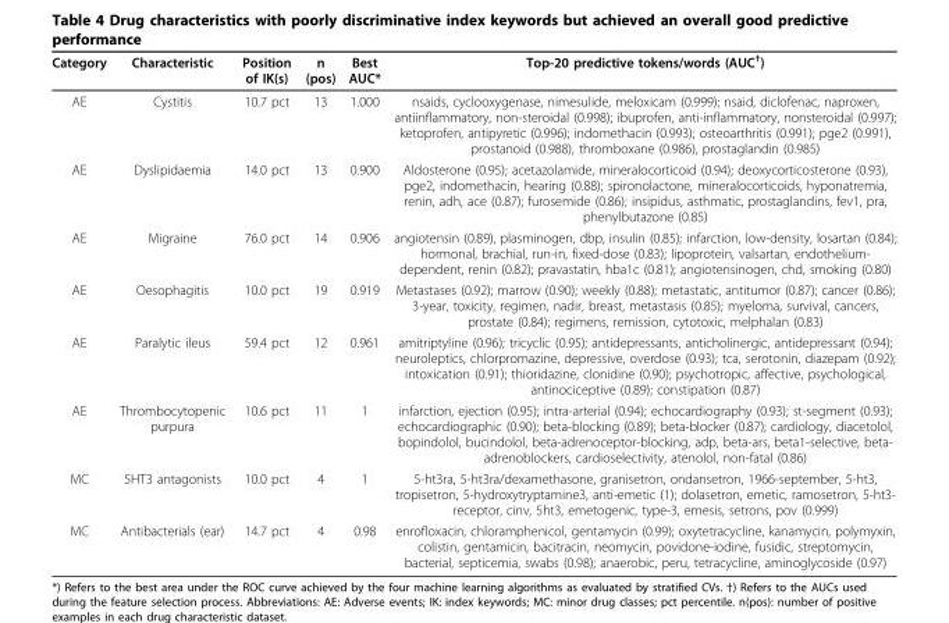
<table><thead><tr><td>Category</td><td>Characteristic</td><td>Position of IK(s)</td><td>n (pos)</td><td>Best AUC*</td><td>Top-20 predictive tokens/words (AUC<sup>†</sup>)</td></tr></thead><tbody><tr><td>AE</td><td>Cystitis</td><td>10.7 pct</td><td>13</td><td>1.000</td><td>nsaids, cyclooxygenase, nimesulide, meloxicam (0.999); nsaid, diclofenac, naproxen, antiinflammatory, non-steroidal (0.998); ibuprofen, anti-inflammatory, nonsteroidal (0.997); ketoprofen, antipyretic (0.996); indomethacin (0.993); osteoarthritis (0.991); pge2 (0.991), prostanoid (0.988), thromboxane (0.986), prostaglandin (0.985)</td></tr><tr><td>AE</td><td>Dyslipidaemia</td><td>14.0 pct</td><td>13</td><td>0.900</td><td>Aldosterone (0.95); acetazolamide, mineralocorticoid (0.94); deoxycorticosterone (0.93), pge2, indomethacin, hearing (0.88); spironolactone, mineralocorticoids, hyponatremia, renin, adh, ace (0.87); furosemide (0.86); insipidus, asthmatic, prostaglandins, fev1, pra, phenylbutazone (0.85)</td></tr><tr><td>AE</td><td>Migraine</td><td>76.0 pct</td><td>14</td><td>0.906</td><td>angiotensin (0.89), plasminogen, dbp, insulin (0.85); infarction, low-density, losartan (0.84); hormonal, brachial, run-in, fixed-dose (0.83); lipoprotein, valsartan, endothelium- dependent, renin (0.82); pravastatin, hba1c (0.81); angiotensinogen, chd, smoking (0.80)</td></tr><tr><td>AE</td><td>Oesophagitis</td><td>10.0 pct</td><td>19</td><td>0.919</td><td>Metastases (0.92); marrow (0.90); weekly (0.88); metastatic, antitumor (0.87); cancer (0.86); 3-year, toxicity, regimen, nadir, breast, metastasis (0.85); myeloma, survival, cancers, prostate (0.84); regimens, remission, cytotoxic, melphalan (0.83)</td></tr><tr><td>AE</td><td>Paralytic ileus</td><td>59.4 pct</td><td>12</td><td>0.961</td><td>amitriptyline (0.96); tricyclic (0.95); antidepressants, anticholinergic, antidepressant (0.94); neuroleptics, chlorpromazine, depressive, overdose (0.93); tca, serotonin, diazepam (0.92); intoxication (0.91); thioridazine, clonidine (0.90); psychotropic, affective, psychological, antinociceptive (0.89); constipation (0.87)</td></tr><tr><td>AE</td><td>Thrombocytopenic purpura</td><td>10.6 pct</td><td>11</td><td>1</td><td>infarction, ejection (0.95); intra-arterial (0.94); echocardiography (0.93); st-segment (0.93); echocardiographic (0.90); beta-blocking (0.89); beta-blocker (0.87); cardiology, diacetolol, bopindolol, bucindolol, beta-adrenoceptor-blocking, adp, beta-ars, beta1-selective, beta- adrenoblockers, cardioselectivity, atenolol, non-fatal (0.86)</td></tr><tr><td>MC</td><td>5HT3 antagonists</td><td>10.0 pct</td><td>4</td><td>1</td><td>5-ht3ra, 5-ht3ra/dexamethasone, granisetron, ondansetron, 1966-september, 5-ht3, tropisetron, 5-hydroxytryptamine3, anti-emetic (1); dolasetron, emetic, ramosetron, 5-ht3- receptor, cinv, 5ht3, emetogenic, type-3, emesis, setrons, pov (0.999)</td></tr><tr><td>MC</td><td>Antibacterials (ear)</td><td>14.7 pct</td><td>4</td><td>0.98</td><td>enrofloxacin, chloramphenicol, gentamycin (0.99); oxytetracycline, kanamycin, polymyxin, colistin, gentamicin, bacitracin, neomycin, povidone-iodine, fusidic, streptomycin, bacterial, septicemia, swabs (0.98); anaerobic, peru, tetracycline, aminoglycoside (0.97)</td></tr></tbody></table>